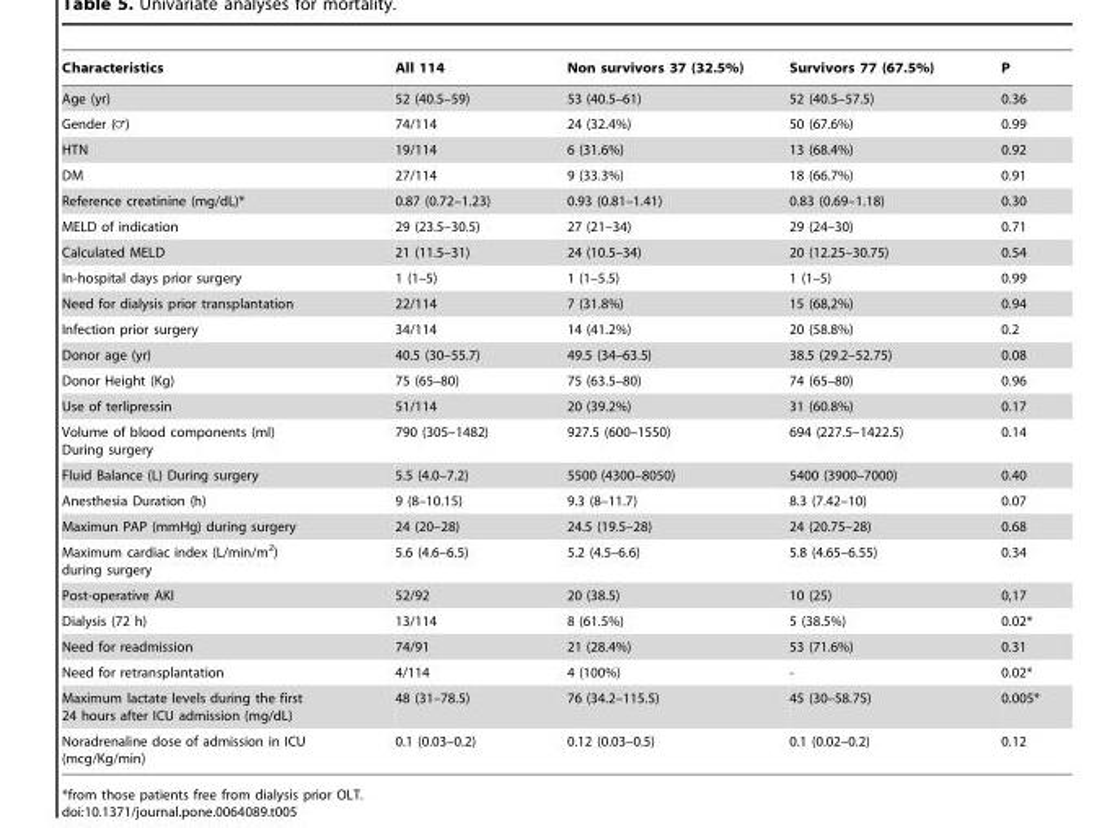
<table><thead><tr><td>Characteristics</td><td>All 114</td><td>Non survivors 37 (32.5%)</td><td>Survivors 77 (67.5%)</td><td>P</td></tr></thead><tbody><tr><td>Age (yr)</td><td>52 (40.5–59)</td><td>53 (40.5–61)</td><td>52 (40.5–57.5)</td><td>0.36</td></tr><tr><td>Gender (=)</td><td>74/114</td><td>24 (32.4%)</td><td>50 (67.6%)</td><td>0.99</td></tr><tr><td>HTN</td><td>19/114</td><td>6 (31.6%)</td><td>13 (68.4%)</td><td>0.92</td></tr><tr><td>DM</td><td>27/114</td><td>9 (33.3%)</td><td>18 (66.7%)</td><td>0.91</td></tr><tr><td>Reference creatinine (mg/dL)*</td><td>0.87 (0.72–1.23)</td><td>0.93 (0.81–1.41)</td><td>0.83 (0.69–1.18)</td><td>0.30</td></tr><tr><td>MELD of indication</td><td>29 (23.5–30.5)</td><td>27 (21–34)</td><td>29 (24–30)</td><td>0.71</td></tr><tr><td>Calculated MELD</td><td>21 (11.5–31)</td><td>24 (10.5–34)</td><td>20 (12.25–30.75)</td><td>0.54</td></tr><tr><td>In-hospital days prior surgery</td><td>1 (1–5)</td><td>1 (1–5.5)</td><td>1 (1–5)</td><td>0.99</td></tr><tr><td>Need for dialysis prior transplantation</td><td>22/114</td><td>7 (31.8%)</td><td>15 (68,2%)</td><td>0.94</td></tr><tr><td>Infection prior surgery</td><td>34/114</td><td>14 (41.2%)</td><td>20 (58.8%)</td><td>0.2</td></tr><tr><td>Donor age (yr)</td><td>40.5 (30–55.7)</td><td>49.5 (34–63.5)</td><td>38.5 (29.2–52.75)</td><td>0.08</td></tr><tr><td>Donor Height (Kg)</td><td>75 (65–80)</td><td>75 (63.5–80)</td><td>74 (65–80)</td><td>0.96</td></tr><tr><td>Use of terlipressin</td><td>51/114</td><td>20 (39.2%)</td><td>31 (60.8%)</td><td>0.17</td></tr><tr><td>Volume of blood components (ml) During surgery</td><td>790 (305–1482)</td><td>927.5 (600–1550)</td><td>694 (227.5–1422.5)</td><td>0.14</td></tr><tr><td>Fluid Balance (L) During surgery</td><td>5.5 (4.0–7.2)</td><td>5500 (4300–8050)</td><td>5400 (3900–7000)</td><td>0.40</td></tr><tr><td>Anesthesia Duration (h)</td><td>9 (8–10.15)</td><td>9.3 (8–11.7)</td><td>8.3 (7.42–10)</td><td>0.07</td></tr><tr><td>Maximun PAP (mmHg) during surgery</td><td>24 (20–28)</td><td>24.5 (19.5–28)</td><td>24 (20.75–28)</td><td>0.68</td></tr><tr><td>Maximum cardiac index (L/min/m<sup>2</sup>) during surgery</td><td>5.6 (4.6–6.5)</td><td>5.2 (4.5–6.6)</td><td>5.8 (4.65–6.55)</td><td>0.34</td></tr><tr><td>Post-operative AKI</td><td>52/92</td><td>20 (38.5)</td><td>10 (25)</td><td>0,17</td></tr><tr><td>Dialysis (72 h)</td><td>13/114</td><td>8 (61.5%)</td><td>5 (38.5%)</td><td>0.02*</td></tr><tr><td>Need for readmission</td><td>74/91</td><td>21 (28.4%)</td><td>53 (71.6%)</td><td>0.31</td></tr><tr><td>Need for retransplantation</td><td>4/114</td><td>4 (100%)</td><td>-</td><td>0.02*</td></tr><tr><td>Maximum lactate levels during the first 24 hours after ICU admission (mg/dL)</td><td>48 (31–78.5)</td><td>76 (34.2–115.5)</td><td>45 (30–58.75)</td><td>0.005*</td></tr><tr><td>Noradrenaline dose of admission in ICU (mcg/Kg/min)</td><td>0.1 (0.03–0.2)</td><td>0.12 (0.03–0.5)</td><td>0.1 (0.02–0.2)</td><td>0.12</td></tr></tbody></table>